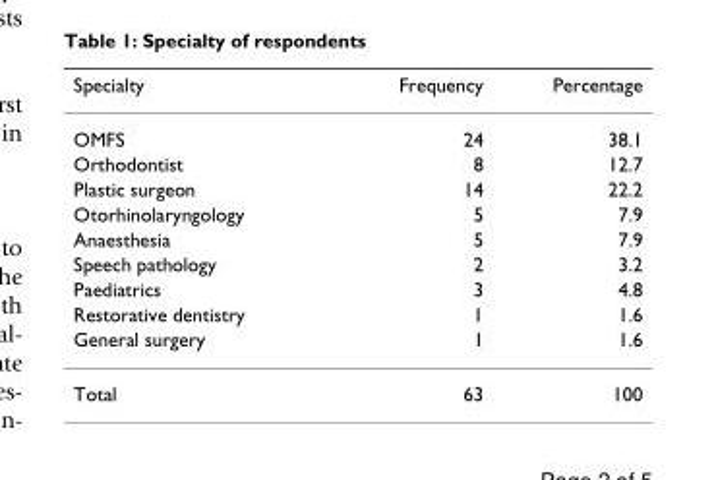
<table><thead><tr><td>Specialty</td><td>Frequency</td><td>Percentage</td></tr></thead><tbody><tr><td>OMFS</td><td>24</td><td>38.1</td></tr><tr><td>Orthodontist</td><td>8</td><td>12.7</td></tr><tr><td>Plastic surgeon</td><td>14</td><td>22.2</td></tr><tr><td>Otorhinolaryngology</td><td>5</td><td>7.9</td></tr><tr><td>Anaesthesia</td><td>5</td><td>7.9</td></tr><tr><td>Speech pathology</td><td>2</td><td>3.2</td></tr><tr><td>Paediatrics</td><td>3</td><td>4.8</td></tr><tr><td>Restorative dentistry</td><td>1</td><td>1.6</td></tr><tr><td>General surgery</td><td>1</td><td>1.6</td></tr><tr><td>Total</td><td>63</td><td>100</td></tr></tbody></table>